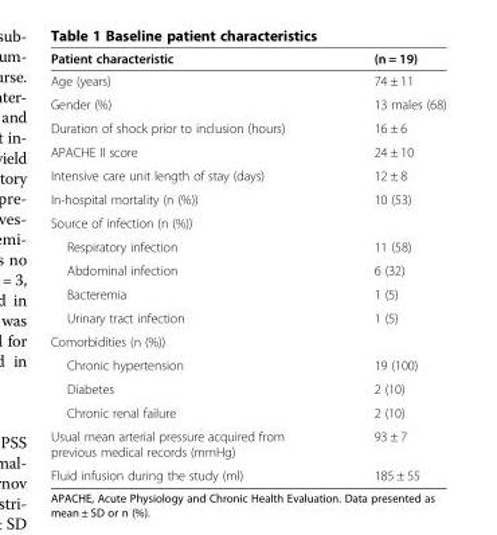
<table><thead><tr><td>Patient characteristic</td><td>(n = 19)</td></tr></thead><tbody><tr><td>Age (years)</td><td>74 ± 11</td></tr><tr><td>Gender (%)</td><td>13 males (68)</td></tr><tr><td>Duration of shock prior to inclusion (hours)</td><td>16 ± 6</td></tr><tr><td>APACHE II score</td><td>24 ± 10</td></tr><tr><td>Intensive care unit length of stay (days)</td><td>12 ± 8</td></tr><tr><td>In-hospital mortality (n (%))</td><td>10 (53)</td></tr><tr><td colspan="2">Source of infection (n (%))</td></tr><tr><td>Respiratory infection</td><td>11 (58)</td></tr><tr><td>Abdominal infection</td><td>6 (32)</td></tr><tr><td>Bacteremia</td><td>1 (5)</td></tr><tr><td>Urinary tract infection</td><td>1 (5)</td></tr><tr><td colspan="2">Comorbidities (n (%))</td></tr><tr><td>Chronic hypertension</td><td>19 (100)</td></tr><tr><td>Diabetes</td><td>2 (10)</td></tr><tr><td>Chronic renal failure</td><td>2 (10)</td></tr><tr><td>Usual mean arterial pressure acquired from previous medical records (mmHg)</td><td>93 ± 7</td></tr><tr><td>Fluid infusion during the study (ml)</td><td>185 ± 55</td></tr></tbody></table>